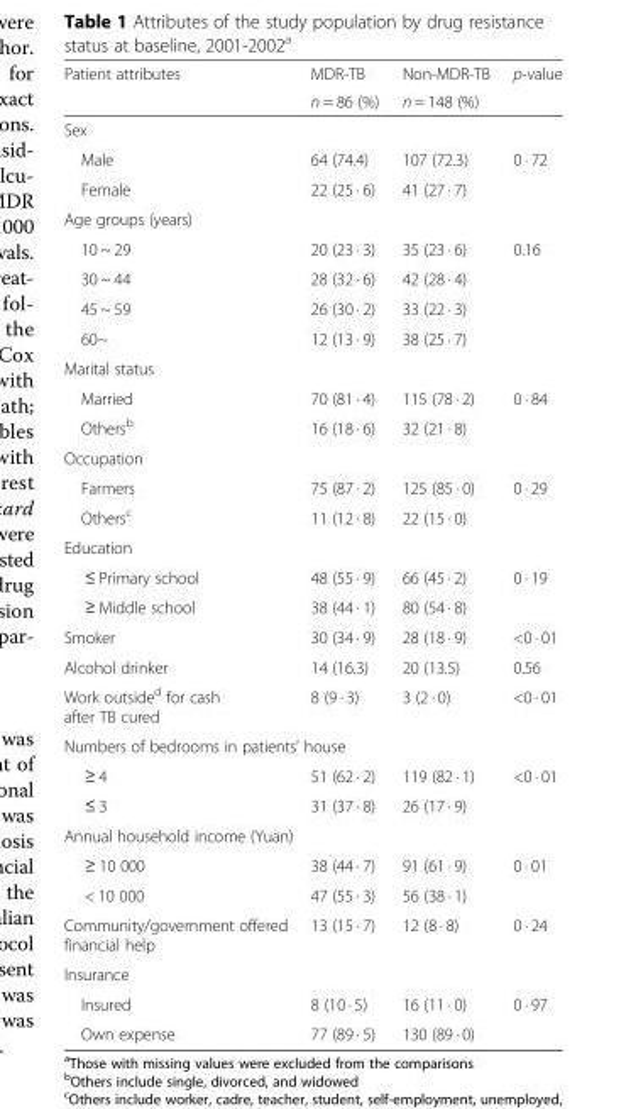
<table><thead><tr><td rowspan="2">Patient attributes</td><td rowspan="2">MDR-TB n = 86 (%)</td><td rowspan="2">Non-MDR-TB n = 148 (%)</td><td rowspan="2">p-value</td></tr><tr></tr></thead><tbody><tr><td colspan="4">Sex</td></tr><tr><td>Male</td><td>64 (74.4)</td><td>107 (72.3)</td><td rowspan="2">0 · 72</td></tr><tr><td>Female</td><td>22 (25 · 6)</td><td>41 (27 · 7)</td></tr><tr><td colspan="4">Age groups (years)</td></tr><tr><td>10 ~ 29</td><td>20 (23 · 3)</td><td>35 (23 · 6)</td><td rowspan="4">0.16</td></tr><tr><td>30 ~ 44</td><td>28 (32 · 6)</td><td>42 (28 · 4)</td></tr><tr><td>45 ~ 59</td><td>26 (30 · 2)</td><td>33 (22 · 3)</td></tr><tr><td>60~</td><td>12 (13 · 9)</td><td>38 (25 · 7)</td></tr><tr><td colspan="4">Marital status</td></tr><tr><td>Married</td><td>70 (81 · 4)</td><td>115 (78 · 2)</td><td rowspan="2">0 · 84</td></tr><tr><td>Others<sup>b</sup></td><td>16 (18 · 6)</td><td>32 (21 · 8)</td></tr><tr><td colspan="4">Occupation</td></tr><tr><td>Farmers</td><td>75 (87 · 2)</td><td>125 (85 · 0)</td><td rowspan="2">0 · 29</td></tr><tr><td>Others<sup>c</sup></td><td>11 (12 · 8)</td><td>22 (15 · 0)</td></tr><tr><td colspan="4">Education</td></tr><tr><td>≤ Primary school</td><td>48 (55 · 9)</td><td>66 (45 · 2)</td><td rowspan="2">0 · 19</td></tr><tr><td>≥ Middle school</td><td>38 (44 · 1)</td><td>80 (54 · 8)</td></tr><tr><td>Smoker</td><td>30 (34 · 9)</td><td>28 (18 · 9)</td><td>&lt;0 · 01</td></tr><tr><td>Alcohol drinker</td><td>14 (16.3)</td><td>20 (13.5)</td><td>0.56</td></tr><tr><td>Work outside<sup>d</sup> for cash after TB cured</td><td>8 (9 · 3)</td><td>3 (2 · 0)</td><td>&lt;0 · 01</td></tr><tr><td colspan="4">Numbers of bedrooms in patients’ house</td></tr><tr><td>≥ 4</td><td>51 (62 · 2)</td><td>119 (82 · 1)</td><td rowspan="2">&lt;0 · 01</td></tr><tr><td>≤ 3</td><td>31 (37 · 8)</td><td>26 (17 · 9)</td></tr><tr><td colspan="4">Annual household income (Yuan)</td></tr><tr><td>≥ 10 000</td><td>38 (44 · 7)</td><td>91 (61 · 9)</td><td rowspan="2">0 · 01</td></tr><tr><td>&lt; 10 000</td><td>47 (55 · 3)</td><td>56 (38 · 1)</td></tr><tr><td>Community/government offered financial help</td><td>13 (15 · 7)</td><td>12 (8 · 8)</td><td>0 · 24</td></tr><tr><td colspan="4">Insurance</td></tr><tr><td>Insured</td><td>8 (10 · 5)</td><td>16 (11 · 0)</td><td rowspan="2">0 · 97</td></tr><tr><td>Own expense</td><td>77 (89 · 5)</td><td>130 (89 · 0)</td></tr></tbody></table>